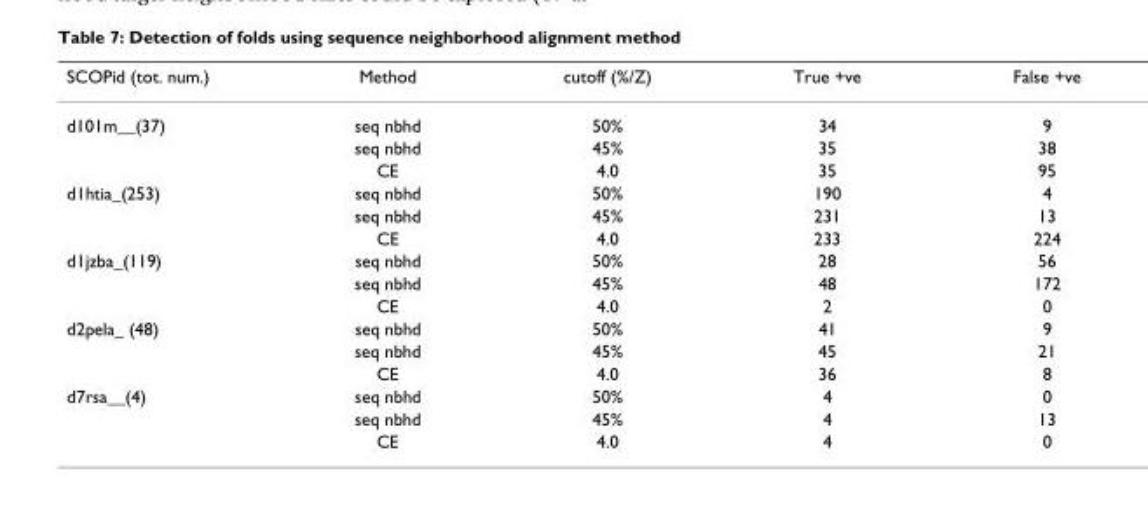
<table><thead><tr><td>SCOPid (tot. num.)</td><td>Method</td><td>cutoff (%/Z)</td><td>True +ve</td><td>False +ve</td></tr></thead><tbody><tr><td rowspan="3">d101m__(37)</td><td>seq nbhd</td><td>50%</td><td>34</td><td>9</td></tr><tr><td>seq nbhd</td><td>45%</td><td>35</td><td>38</td></tr><tr><td>CE</td><td>4.0</td><td>35</td><td>95</td></tr><tr><td rowspan="3">d1htia_(253)</td><td>seq nbhd</td><td>50%</td><td>190</td><td>4</td></tr><tr><td>seq nbhd</td><td>45%</td><td>231</td><td>13</td></tr><tr><td>CE</td><td>4.0</td><td>233</td><td>224</td></tr><tr><td rowspan="3">d1jzba_(119)</td><td>seq nbhd</td><td>50%</td><td>28</td><td>56</td></tr><tr><td>seq nbhd</td><td>45%</td><td>48</td><td>172</td></tr><tr><td>CE</td><td>4.0</td><td>2</td><td>0</td></tr><tr><td rowspan="3">d2pela_ (48)</td><td>seq nbhd</td><td>50%</td><td>41</td><td>9</td></tr><tr><td>seq nbhd</td><td>45%</td><td>45</td><td>21</td></tr><tr><td>CE</td><td>4.0</td><td>36</td><td>8</td></tr><tr><td rowspan="3">d7rsa__(4)</td><td>seq nbhd</td><td>50%</td><td>4</td><td>0</td></tr><tr><td>seq nbhd</td><td>45%</td><td>4</td><td>13</td></tr><tr><td>CE</td><td>4.0</td><td>4</td><td>0</td></tr></tbody></table>